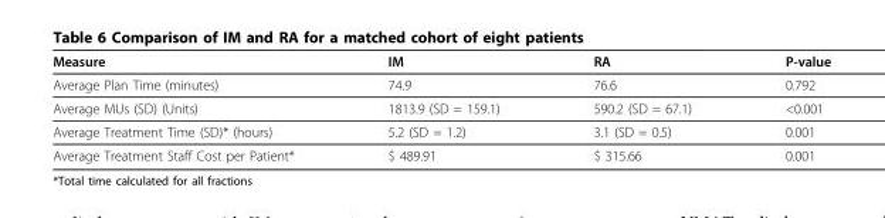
<table><thead><tr><td>Measure</td><td>IM</td><td>RA</td><td>P-value</td></tr></thead><tbody><tr><td>Average Plan Time (minutes)</td><td>74.9</td><td>76.6</td><td>0.792</td></tr><tr><td>Average MUs (SD) (Units)</td><td>1813.9 (SD = 159.1)</td><td>590.2 (SD = 67.1)</td><td>&lt;0.001</td></tr><tr><td>Average Treatment Time (SD)* (hours)</td><td>5.2 (SD = 1.2)</td><td>3.1 (SD = 0.5)</td><td>0.001</td></tr><tr><td>Average Treatment Staff Cost per Patient*</td><td>$ 489.91</td><td>$ 315.66</td><td>0.001</td></tr></tbody></table>